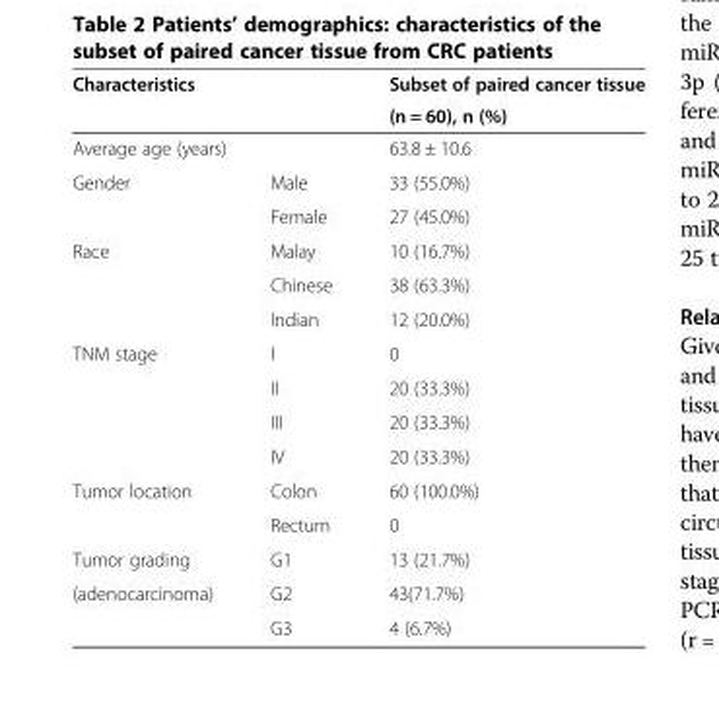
<table><thead><tr><td colspan="2">Characteristics</td><td rowspan="2">Subset of paired cancer tissue (n = 60), n (%)</td></tr><tr><td></td><td></td></tr></thead><tbody><tr><td colspan="2">Average age (years)</td><td>63.8 ± 10.6</td></tr><tr><td rowspan="2">Gender</td><td>Male</td><td>33 (55.0%)</td></tr><tr><td>Female</td><td>27 (45.0%)</td></tr><tr><td rowspan="3">Race</td><td>Malay</td><td>10 (16.7%)</td></tr><tr><td>Chinese</td><td>38 (63.3%)</td></tr><tr><td>Indian</td><td>12 (20.0%)</td></tr><tr><td rowspan="4">TNM stage</td><td>I</td><td>0</td></tr><tr><td>II</td><td>20 (33.3%)</td></tr><tr><td>III</td><td>20 (33.3%)</td></tr><tr><td>IV</td><td>20 (33.3%)</td></tr><tr><td rowspan="2">Tumor location</td><td>Colon</td><td>60 (100.0%)</td></tr><tr><td>Rectum</td><td>0</td></tr><tr><td>Tumor grading</td><td>G1</td><td>13 (21.7%)</td></tr><tr><td rowspan="2">(adenocarcinoma)</td><td>G2</td><td>43(71.7%)</td></tr><tr><td>G3</td><td>4 (6.7%)</td></tr></tbody></table>